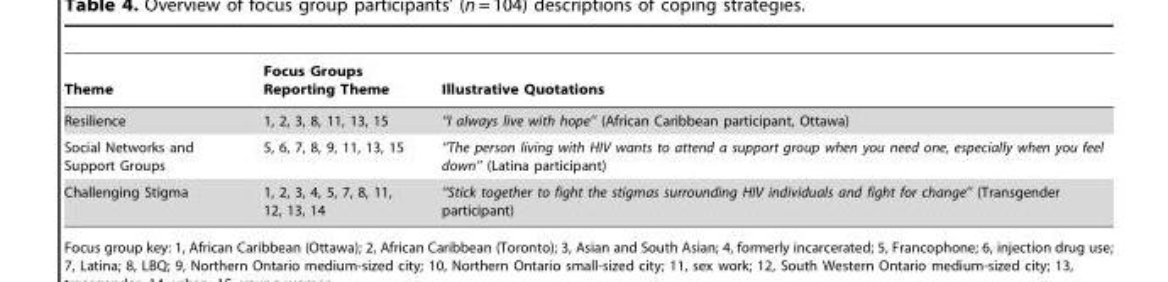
<table><thead><tr><td>Theme</td><td>Focus Groups Reporting Theme</td><td>Illustrative Quotations</td></tr></thead><tbody><tr><td>Resilience</td><td>1, 2, 3, 8, 11, 13, 15</td><td>‘‘I always live with hope’’ (African Caribbean participant, Ottawa)</td></tr><tr><td>Social Networks and Support Groups</td><td>5, 6, 7, 8, 9, 11, 13, 15</td><td>‘‘The person living with HIV wants to attend a support group when you need one, especially when you feel down’’ (Latina participant)</td></tr><tr><td>Challenging Stigma</td><td>1, 2, 3, 4, 5, 7, 8, 11, 12, 13, 14</td><td>‘‘Stick together to fight the stigmas surrounding HIV individuals and fight for change’’ (Transgender participant)</td></tr></tbody></table>